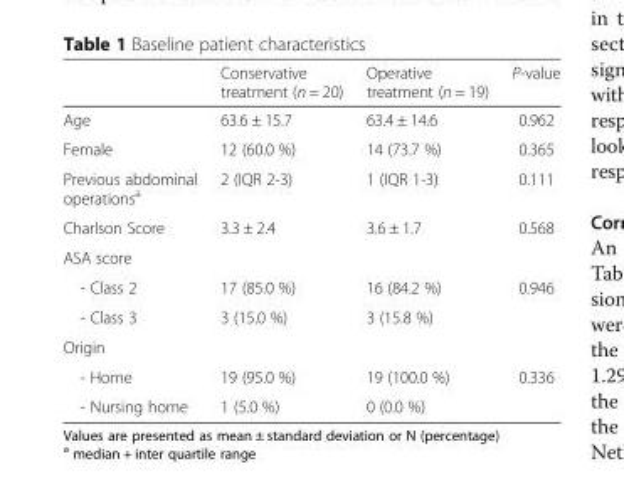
<table><thead><tr><td></td><td>Conservative treatment (n = 20)</td><td>Operative treatment (n = 19)</td><td>P-value</td></tr></thead><tbody><tr><td>Age</td><td>63.6 ± 15.7</td><td>63.4 ± 14.6</td><td>0.962</td></tr><tr><td>Female</td><td>12 (60.0 %)</td><td>14 (73.7 %)</td><td>0.365</td></tr><tr><td>Previous abdominal operations<sup>a</sup></td><td>2 (IQR 2-3)</td><td>1 (IQR 1-3)</td><td>0.111</td></tr><tr><td>Charlson Score</td><td>3.3 ± 2.4</td><td>3.6 ± 1.7</td><td>0.568</td></tr><tr><td colspan="4">ASA score</td></tr><tr><td>- Class 2</td><td>17 (85.0 %)</td><td>16 (84.2 %)</td><td rowspan="2">0.946</td></tr><tr><td>- Class 3</td><td>3 (15.0 %)</td><td>3 (15.8 %)</td></tr><tr><td colspan="4">Origin</td></tr><tr><td>- Home</td><td>19 (95.0 %)</td><td>19 (100.0 %)</td><td rowspan="2">0.336</td></tr><tr><td>- Nursing home</td><td>1 (5.0 %)</td><td>0 (0.0 %)</td></tr></tbody></table>